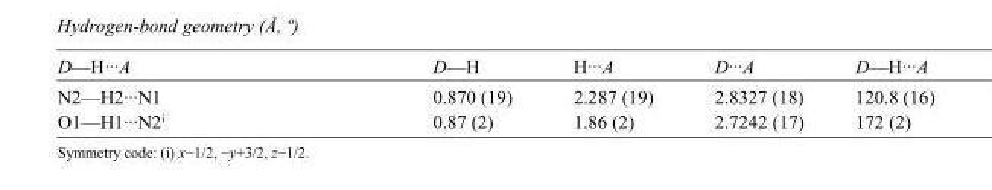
<table><tbody><tr><td>D—H···A</td><td>D—H</td><td>H···A</td><td>D···A</td><td>D—H···A</td></tr><tr><td>N2—H2···N1</td><td>0.870 (19)</td><td>2.287 (19)</td><td>2.8327 (18)</td><td>120.8 (16)</td></tr><tr><td>O1—H1···N2<sup>i</sup></td><td>0.87 (2)</td><td>1.86 (2)</td><td>2.7242 (17)</td><td>172 (2)</td></tr></tbody></table>